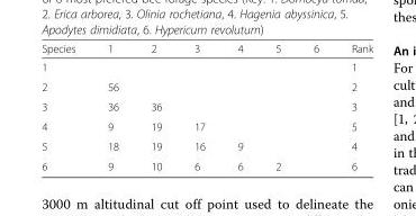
<table><thead><tr><td>Species</td><td>1</td><td>2</td><td>3</td><td>4</td><td>5</td><td>6</td><td>Rank</td></tr></thead><tbody><tr><td>1</td><td></td><td></td><td></td><td></td><td></td><td></td><td>1</td></tr><tr><td>2</td><td>56</td><td></td><td></td><td></td><td></td><td></td><td>2</td></tr><tr><td>3</td><td>36</td><td>36</td><td></td><td></td><td></td><td></td><td>3</td></tr><tr><td>4</td><td>9</td><td>19</td><td>17</td><td></td><td></td><td></td><td>5</td></tr><tr><td>5</td><td>18</td><td>19</td><td>16</td><td>9</td><td></td><td></td><td>4</td></tr><tr><td>6</td><td>9</td><td>10</td><td>6</td><td>6</td><td>2</td><td></td><td>6</td></tr></tbody></table>